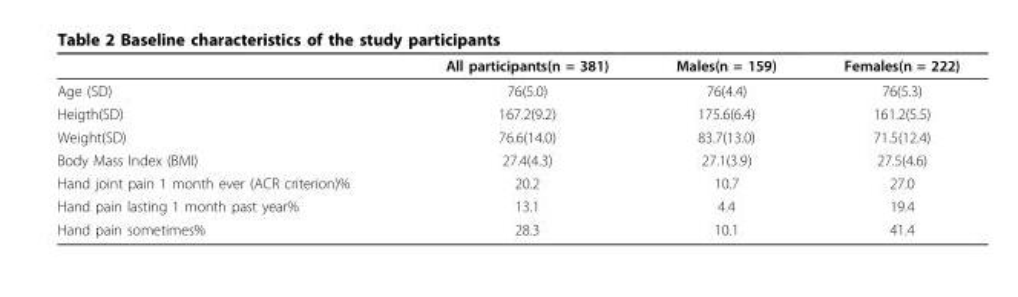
<table><thead><tr><td></td><td>All participants(n = 381)</td><td>Males(n = 159)</td><td>Females(n = 222)</td></tr></thead><tbody><tr><td>Age (SD)</td><td>76(5.0)</td><td>76(4.4)</td><td>76(5.3)</td></tr><tr><td>Heigth(SD)</td><td>167.2(9.2)</td><td>175.6(6.4)</td><td>161.2(5.5)</td></tr><tr><td>Weight(SD)</td><td>76.6(14.0)</td><td>83.7(13.0)</td><td>71.5(12.4)</td></tr><tr><td>Body Mass Index (BMI)</td><td>27.4(4.3)</td><td>27.1(3.9)</td><td>27.5(4.6)</td></tr><tr><td>Hand joint pain 1 month ever (ACR criterion)%</td><td>20.2</td><td>10.7</td><td>27.0</td></tr><tr><td>Hand pain lasting 1 month past year%</td><td>13.1</td><td>4.4</td><td>19.4</td></tr><tr><td>Hand pain sometimes%</td><td>28.3</td><td>10.1</td><td>41.4</td></tr></tbody></table>